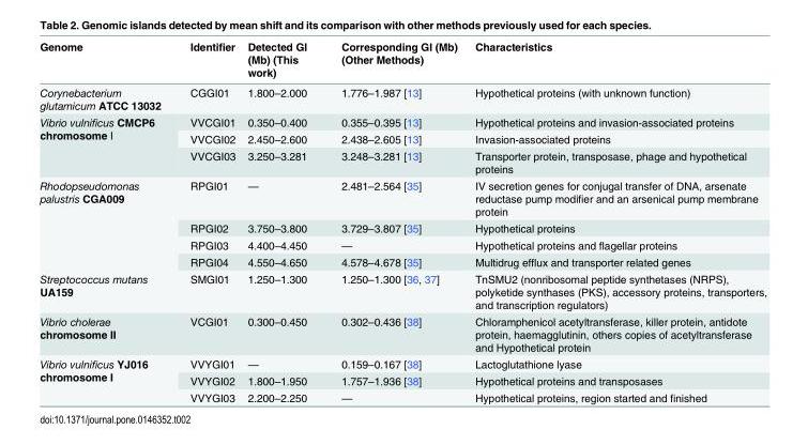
<table><thead><tr><td>Genome</td><td>Identifier</td><td>Detected GI (Mb) (This work)</td><td>Corresponding GI (Mb) (Other Methods)</td><td>Characteristics</td></tr></thead><tbody><tr><td>Corynebacterium glutamicum ATCC 13032</td><td>CGGI01</td><td>1.800–2.000</td><td>1.776–1.987 [13]</td><td>Hypothetical proteins (with unknown function)</td></tr><tr><td rowspan="3">Vibrio vulnificus CMCP6 chromosome I</td><td>VVCGI01</td><td>0.350–0.400</td><td>0.355–0.395 [13]</td><td>Hypothetical proteins and invasion-associated proteins</td></tr><tr><td>VVCGI02</td><td>2.450–2.600</td><td>2.438–2.605 [13]</td><td>Invasion-associated proteins</td></tr><tr><td>VVCGI03</td><td>3.250–3.281</td><td>3.248–3.281 [13]</td><td>Transporter protein, transposase, phage and hypothetical proteins</td></tr><tr><td rowspan="4">Rhodopseudomonas palustris CGA009</td><td>RPGI01</td><td>—</td><td>2.481–2.564 [35]</td><td>IV secretion genes for conjugal transfer of DNA, arsenate reductase pump modifier and an arsenical pump membrane protein</td></tr><tr><td>RPGI02</td><td>3.750–3.800</td><td>3.729–3.807 [35]</td><td>Hypothetical proteins</td></tr><tr><td>RPGI03</td><td>4.400–4.450</td><td>—</td><td>Hypothetical proteins and flagellar proteins</td></tr><tr><td>RPGI04</td><td>4.550–4.650</td><td>4.578–4.678 [35]</td><td>Multidrug efflux and transporter related genes</td></tr><tr><td>Streptococcus mutans UA159</td><td>SMGI01</td><td>1.250–1.300</td><td>1.250–1.300 [36, 37]</td><td>TnSMU2 (nonribosomal peptide synthetases (NRPS), polyketide synthases (PKS), accessory proteins, transporters, and transcription regulators)</td></tr><tr><td>Vibrio cholerae chromosome II</td><td>VCGI01</td><td>0.300–0.450</td><td>0.302–0.436 [38]</td><td>Chloramphenicol acetyltransferase, killer protein, antidote protein, haemagglutinin, others copies of acetyltransferase and Hypothetical protein</td></tr><tr><td rowspan="3">Vibrio vulnificus YJ016 chromosome I</td><td>VVYGI01</td><td>—</td><td>0.159–0.167 [38]</td><td>Lactoglutathione lyase</td></tr><tr><td>VVYGI02</td><td>1.800–1.950</td><td>1.757–1.936 [38]</td><td>Hypothetical proteins and transposases</td></tr><tr><td>VVYGI03</td><td>2.200–2.250</td><td>—</td><td>Hypothetical proteins, region started and finished</td></tr></tbody></table>